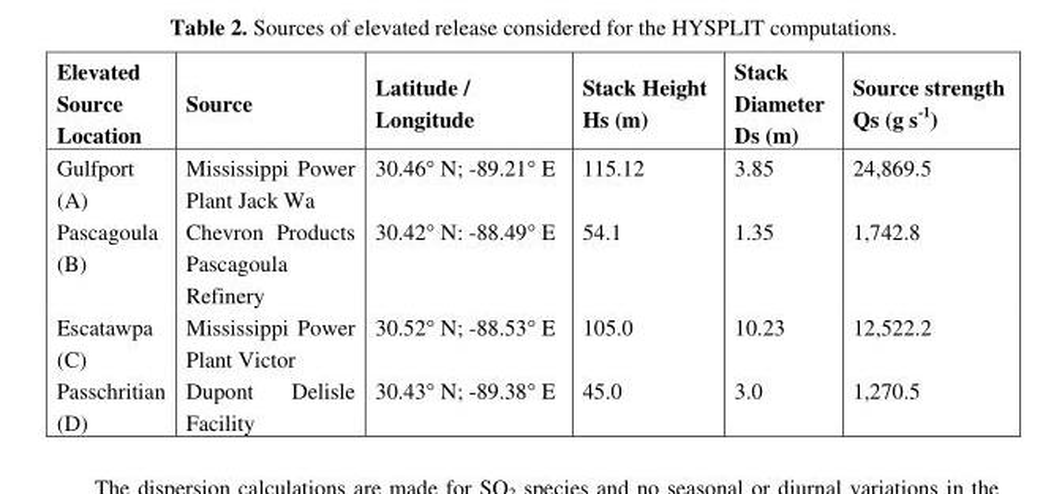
<table><thead><tr><td>Elevated Source Location</td><td>Source</td><td>Latitude / Longitude</td><td>Stack Height Hs (m)</td><td>Stack Diameter Ds (m)</td><td>Source strength Qs (g s<sup>-1</sup>)</td></tr></thead><tbody><tr><td>Gulfport (A)</td><td>Mississippi Power Plant Jack Wa</td><td>30.46° N; -89.21° E</td><td>115.12</td><td>3.85</td><td>24,869.5</td></tr><tr><td>Pascagoula (B)</td><td>Chevron Products Pascagoula Refinery</td><td>30.42° N: -88.49° E</td><td>54.1</td><td>1.35</td><td>1,742.8</td></tr><tr><td>Escatawpa (C)</td><td>Mississippi Power Plant Victor</td><td>30.52° N; -88.53° E</td><td>105.0</td><td>10.23</td><td>12,522.2</td></tr><tr><td>Passchritian (D)</td><td>Dupont Delisle Facility</td><td>30.43° N; -89.38° E</td><td>45.0</td><td>3.0</td><td>1,270.5</td></tr></tbody></table>